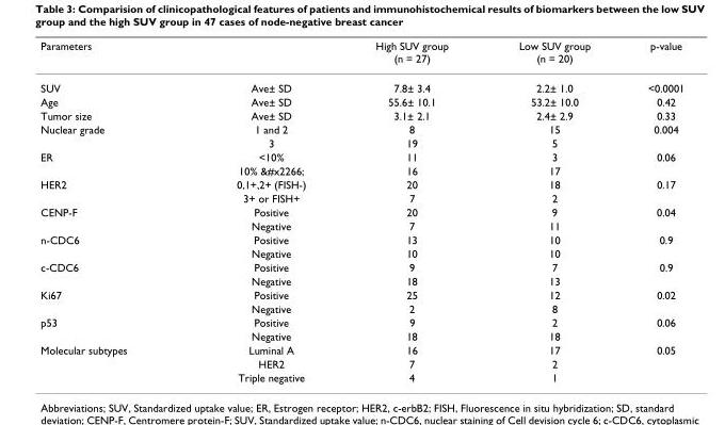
<table><thead><tr><td>Parameters</td><td></td><td>High SUV group (n = 27)</td><td>Low SUV group (n = 20)</td><td>p-value</td></tr></thead><tbody><tr><td>SUV</td><td>Ave± SD</td><td>7.8± 3.4</td><td>2.2± 1.0</td><td>&lt;0.0001</td></tr><tr><td>Age</td><td>Ave± SD</td><td>55.6± 10.1</td><td>53.2± 10.0</td><td>0.42</td></tr><tr><td>Tumor size</td><td>Ave± SD</td><td>3.1± 2.1</td><td>2.4± 2.9</td><td>0.33</td></tr><tr><td rowspan="2">Nuclear grade</td><td>1 and 2</td><td>8</td><td>15</td><td>0.004</td></tr><tr><td>3</td><td>19</td><td>5</td><td></td></tr><tr><td rowspan="2">ER</td><td>&lt;10%</td><td>11</td><td>3</td><td>0.06</td></tr><tr><td>10% &amp;#x2266;</td><td>16</td><td>17</td><td></td></tr><tr><td rowspan="2">HER2</td><td>0,1+,2+ (FISH-)</td><td>20</td><td>18</td><td>0.17</td></tr><tr><td>3+ or FISH+</td><td>7</td><td>2</td><td></td></tr><tr><td rowspan="2">CENP-F</td><td>Positive</td><td>20</td><td>9</td><td>0.04</td></tr><tr><td>Negative</td><td>7</td><td>11</td><td></td></tr><tr><td rowspan="2">n-CDC6</td><td>Positive</td><td>13</td><td>10</td><td>0.9</td></tr><tr><td>Negative</td><td>10</td><td>10</td><td></td></tr><tr><td rowspan="2">c-CDC6</td><td>Positive</td><td>9</td><td>7</td><td>0.9</td></tr><tr><td>Negative</td><td>18</td><td>13</td><td></td></tr><tr><td rowspan="2">Ki67</td><td>Positive</td><td>25</td><td>12</td><td>0.02</td></tr><tr><td>Negative</td><td>2</td><td>8</td><td></td></tr><tr><td rowspan="2">p53</td><td>Positive</td><td>9</td><td>2</td><td>0.06</td></tr><tr><td>Negative</td><td>18</td><td>18</td><td></td></tr><tr><td rowspan="3">Molecular subtypes</td><td>Luminal A</td><td>16</td><td>17</td><td>0.05</td></tr><tr><td>HER2</td><td>7</td><td>2</td><td></td></tr><tr><td>Triple negative</td><td>4</td><td>1</td><td></td></tr></tbody></table>